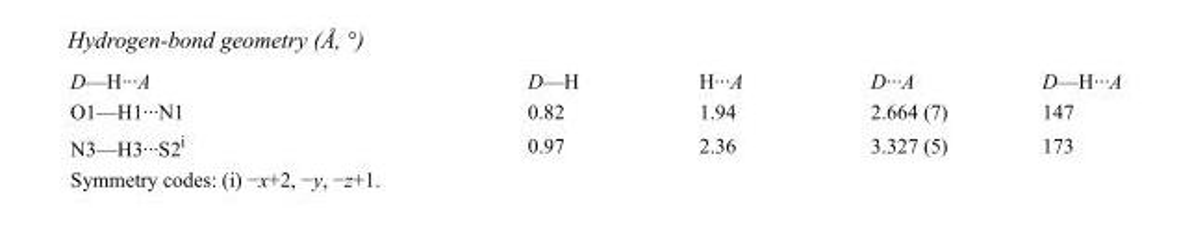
<table><tbody><tr><td>D—H···A</td><td>D—H</td><td>H···A</td><td>D···A</td><td>D—H···A</td></tr><tr><td>O1—H1···N1</td><td>0.82</td><td>1.94</td><td>2.664 (7)</td><td>147</td></tr><tr><td>N3—H3···S2<sup>i</sup></td><td>0.97</td><td>2.36</td><td>3.327 (5)</td><td>173</td></tr></tbody></table>